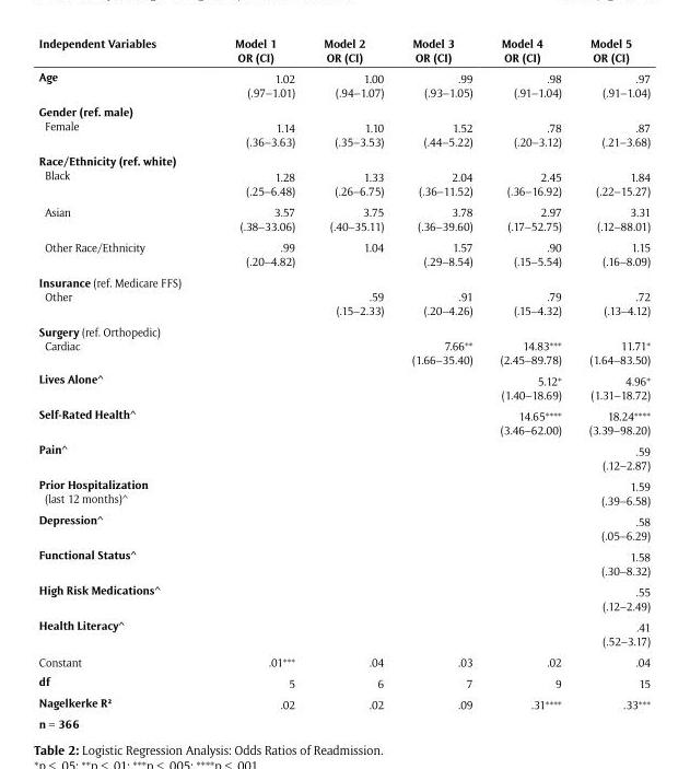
<table><thead><tr><td>Independent Variables</td><td>Model 1 OR (CI)</td><td>Model 2 OR (CI)</td><td>Model 3 OR (CI)</td><td>Model 4 OR (CI)</td><td>Model 5 OR (CI)</td></tr></thead><tbody><tr><td>Age</td><td>1.02 (.97–1.01)</td><td>1.00 (.94–1.07)</td><td>.99 (.93–1.05)</td><td>.98 (.91–1.04)</td><td>.97 (.91–1.04)</td></tr><tr><td colspan="6">Gender (ref. male)</td></tr><tr><td>Female</td><td>1.14 (.36–3.63)</td><td>1.10 (.35–3.53)</td><td>1.52 (.44–5.22)</td><td>.78 (.20–3.12)</td><td>.87 (.21–3.68)</td></tr><tr><td colspan="6">Race/Ethnicity (ref. white)</td></tr><tr><td>Black</td><td>1.28 (.25–6.48)</td><td>1.33 (.26–6.75)</td><td>2.04 (.36–11.52)</td><td>2.45 (.36–16.92)</td><td>1.84 (.22–15.27)</td></tr><tr><td>Asian</td><td>3.57 (.38–33.06)</td><td>3.75 (.40–35.11)</td><td>3.78 (.36–39.60)</td><td>2.97 (.17–52.75)</td><td>3.31 (.12–88.01)</td></tr><tr><td>Other Race/Ethnicity</td><td>.99 (.20–4.82)</td><td>1.04</td><td>1.57 (.29–8.54)</td><td>.90 (.15–5.54)</td><td>1.15 (.16–8.09)</td></tr><tr><td colspan="6">Insurance (ref. Medicare FFS)</td></tr><tr><td>Other</td><td></td><td>.59 (.15–2.33)</td><td>.91 (.20–4.26)</td><td>.79 (.15–4.32)</td><td>.72 (.13–4.12)</td></tr><tr><td colspan="6">Surgery (ref. Orthopedic)</td></tr><tr><td>Cardiac</td><td></td><td></td><td>7.66** (1.66–35.40)</td><td>14.83*** (2.45–89.78)</td><td>11.71* (1.64–83.50)</td></tr><tr><td>Lives Alone^</td><td></td><td></td><td></td><td>5.12* (1.40–18.69)</td><td>4.96* (1.31–18.72)</td></tr><tr><td>Self-Rated Health^</td><td></td><td></td><td></td><td>14.65**** (3.46–62.00)</td><td>18.24**** (3.39–98.20)</td></tr><tr><td>Pain^</td><td></td><td></td><td></td><td></td><td>.59 (.12–2.87)</td></tr><tr><td>Prior Hospitalization (last 12 months)^</td><td></td><td></td><td></td><td></td><td>1.59 (.39–6.58)</td></tr><tr><td>Depression^</td><td></td><td></td><td></td><td></td><td>.58 (.05–6.29)</td></tr><tr><td>Functional Status^</td><td></td><td></td><td></td><td></td><td>1.58 (.30–8.32)</td></tr><tr><td>High Risk Medications^</td><td></td><td></td><td></td><td></td><td>.55 (.12–2.49)</td></tr><tr><td>Health Literacy^</td><td></td><td></td><td></td><td></td><td>.41 (.52–3.17)</td></tr><tr><td>Constant</td><td>.01***</td><td>.04</td><td>.03</td><td>.02</td><td>.04</td></tr><tr><td>df</td><td>5</td><td>6</td><td>7</td><td>9</td><td>15</td></tr><tr><td>Nagelkerke R²</td><td>.02</td><td>.02</td><td>.09</td><td>.31****</td><td>.33***</td></tr><tr><td>n = 366</td><td></td><td></td><td></td><td></td><td></td></tr></tbody></table>